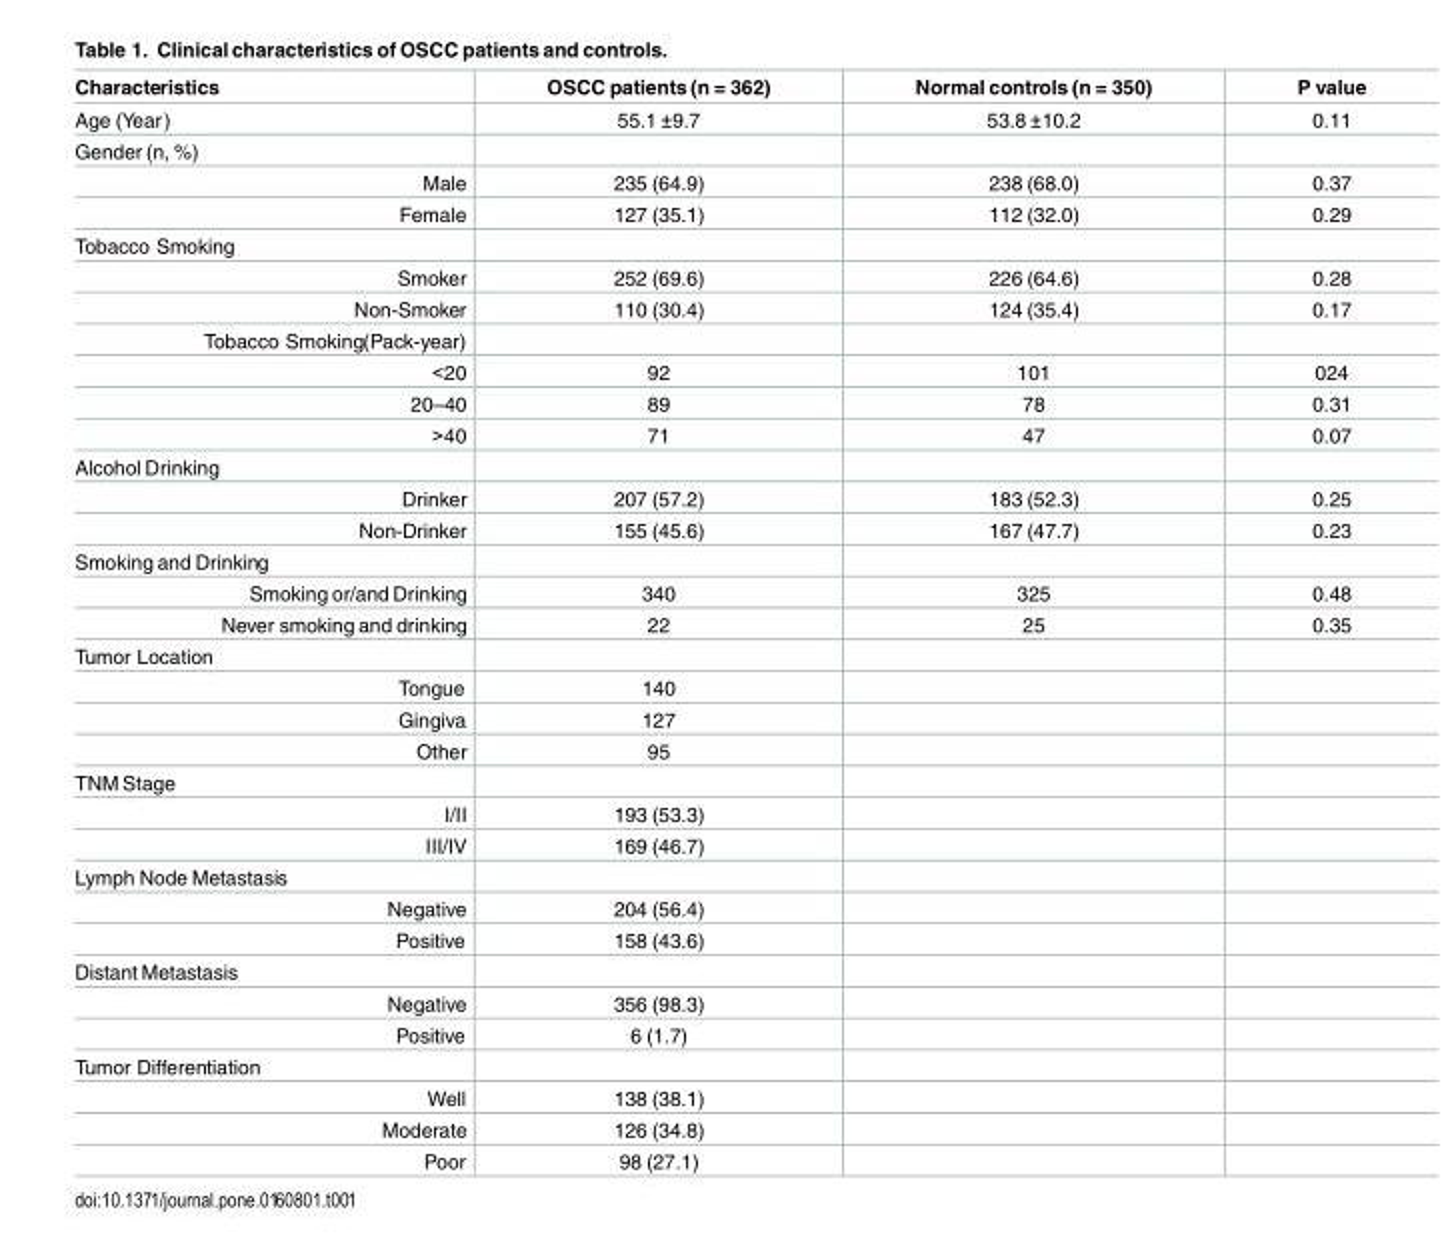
<table><thead><tr><td>Characteristics</td><td>OSCC patients (n = 362)</td><td>Normal controls (n = 350)</td><td>P value</td></tr></thead><tbody><tr><td>Age (Year)</td><td>55.1 ±9.7</td><td>53.8 ±10.2</td><td>0.11</td></tr><tr><td colspan="4">Gender (n, %)</td></tr><tr><td>Male</td><td>235 (64.9)</td><td>238 (68.0)</td><td>0.37</td></tr><tr><td>Female</td><td>127 (35.1)</td><td>112 (32.0)</td><td>0.29</td></tr><tr><td colspan="4">Tobacco Smoking</td></tr><tr><td>Smoker</td><td>252 (69.6)</td><td>226 (64.6)</td><td>0.28</td></tr><tr><td>Non-Smoker</td><td>110 (30.4)</td><td>124 (35.4)</td><td>0.17</td></tr><tr><td colspan="4">Tobacco Smoking(Pack-year)</td></tr><tr><td>&lt;20</td><td>92</td><td>101</td><td>024</td></tr><tr><td>20–40</td><td>89</td><td>78</td><td>0.31</td></tr><tr><td>&gt;40</td><td>71</td><td>47</td><td>0.07</td></tr><tr><td colspan="4">Alcohol Drinking</td></tr><tr><td>Drinker</td><td>207 (57.2)</td><td>183 (52.3)</td><td>0.25</td></tr><tr><td>Non-Drinker</td><td>155 (45.6)</td><td>167 (47.7)</td><td>0.23</td></tr><tr><td colspan="4">Smoking and Drinking</td></tr><tr><td>Smoking or/and Drinking</td><td>340</td><td>325</td><td>0.48</td></tr><tr><td>Never smoking and drinking</td><td>22</td><td>25</td><td>0.35</td></tr><tr><td colspan="4">Tumor Location</td></tr><tr><td>Tongue</td><td>140</td><td></td><td></td></tr><tr><td>Gingiva</td><td>127</td><td></td><td></td></tr><tr><td>Other</td><td>95</td><td></td><td></td></tr><tr><td colspan="4">TNM Stage</td></tr><tr><td>I/II</td><td>193 (53.3)</td><td></td><td></td></tr><tr><td>III/IV</td><td>169 (46.7)</td><td></td><td></td></tr><tr><td colspan="4">Lymph Node Metastasis</td></tr><tr><td>Negative</td><td>204 (56.4)</td><td></td><td></td></tr><tr><td>Positive</td><td>158 (43.6)</td><td></td><td></td></tr><tr><td colspan="4">Distant Metastasis</td></tr><tr><td>Negative</td><td>356 (98.3)</td><td></td><td></td></tr><tr><td>Positive</td><td>6 (1.7)</td><td></td><td></td></tr><tr><td colspan="4">Tumor Differentiation</td></tr><tr><td>Well</td><td>138 (38.1)</td><td></td><td></td></tr><tr><td>Moderate</td><td>126 (34.8)</td><td></td><td></td></tr><tr><td>Poor</td><td>98 (27.1)</td><td></td><td></td></tr></tbody></table>